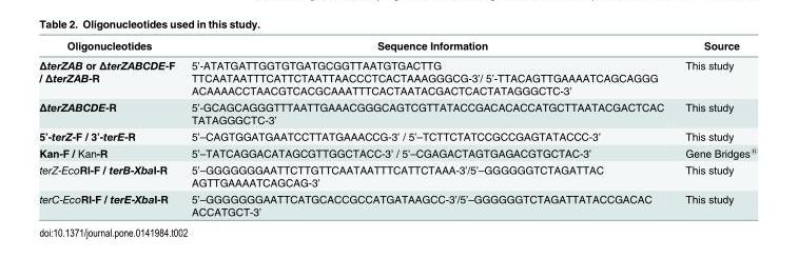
<table><thead><tr><td>Oligonucleotides</td><td>Sequence Information</td><td>Source</td></tr></thead><tbody><tr><td>ΔterZAB or ΔterZABCDE-F / ΔterZAB-R</td><td>5’-ATATGATTGGTGTGATGCGGTTAATGTGACTTG TTCAATAATTTCATTCTAATTAACCCTCACTAAAGGGCG-3’/ 5’-TTACAGTTGAAAATCAGCAGGG ACAAAACCTAACGTCACGCAAATTTCACTAATACGACTCACTATAGGGCTC-3’</td><td>This study</td></tr><tr><td>ΔterZABCDE-R</td><td>5’-GCAGCAGGGTTTAATTGAAACGGGCAGTCGTTATACCGACACACCATGCTTAATACGACTCAC TATAGGGCTC-3’</td><td>This study</td></tr><tr><td>5’-terZ-F / 3’-terE-R</td><td>5’–CAGTGGATGAATCCTTATGAAACCG-3’ / 5’–TCTTCTATCCGCCGAGTATACCC-3’</td><td>This study</td></tr><tr><td>Kan-F / Kan-R</td><td>5’–TATCAGGACATAGCGTTGGCTACC-3’ / 5’–CGAGACTAGTGAGACGTGCTAC-3’</td><td>Gene Bridges<sup>®</sup></td></tr><tr><td>terZ-EcoRI-F / terB-XbaI-R</td><td>5’–GGGGGGGAATTCTTGTTCAATAATTTCATTCTAAA-3’/5’–GGGGGGTCTAGATTAC AGTTGAAAATCAGCAG-3’</td><td>This study</td></tr><tr><td>terC-EcoRI-F / terE-XbaI-R</td><td>5’–GGGGGGGAATTCATGCACCGCCATGATAAGCC-3’/5’–GGGGGGTCTAGATTATACCGACAC ACCATGCT-3’</td><td>This study</td></tr></tbody></table>